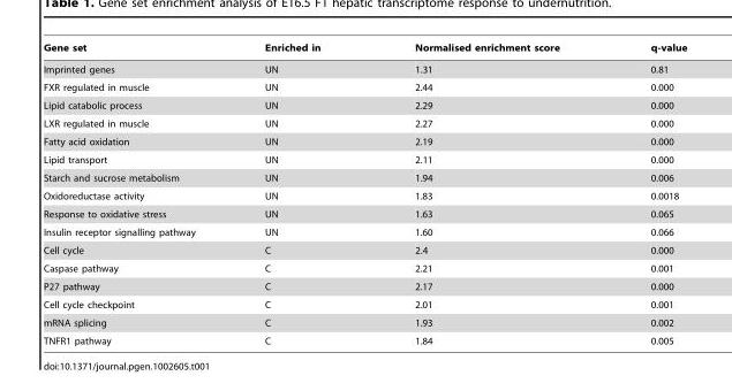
<table><thead><tr><td>Gene set</td><td>Enriched in</td><td>Normalised enrichment score</td><td>q-value</td></tr></thead><tbody><tr><td>Imprinted genes</td><td>UN</td><td>1.31</td><td>0.81</td></tr><tr><td>FXR regulated in muscle</td><td>UN</td><td>2.44</td><td>0.000</td></tr><tr><td>Lipid catabolic process</td><td>UN</td><td>2.29</td><td>0.000</td></tr><tr><td>LXR regulated in muscle</td><td>UN</td><td>2.27</td><td>0.000</td></tr><tr><td>Fatty acid oxidation</td><td>UN</td><td>2.19</td><td>0.000</td></tr><tr><td>Lipid transport</td><td>UN</td><td>2.11</td><td>0.000</td></tr><tr><td>Starch and sucrose metabolism</td><td>UN</td><td>1.94</td><td>0.006</td></tr><tr><td>Oxidoreductase activity</td><td>UN</td><td>1.83</td><td>0.0018</td></tr><tr><td>Response to oxidative stress</td><td>UN</td><td>1.63</td><td>0.065</td></tr><tr><td>Insulin receptor signalling pathway</td><td>UN</td><td>1.60</td><td>0.066</td></tr><tr><td>Cell cycle</td><td>C</td><td>2.4</td><td>0.000</td></tr><tr><td>Caspase pathway</td><td>C</td><td>2.21</td><td>0.001</td></tr><tr><td>P27 pathway</td><td>C</td><td>2.17</td><td>0.000</td></tr><tr><td>Cell cycle checkpoint</td><td>C</td><td>2.01</td><td>0.001</td></tr><tr><td>mRNA splicing</td><td>C</td><td>1.93</td><td>0.002</td></tr><tr><td>TNFR1 pathway</td><td>C</td><td>1.84</td><td>0.005</td></tr></tbody></table>